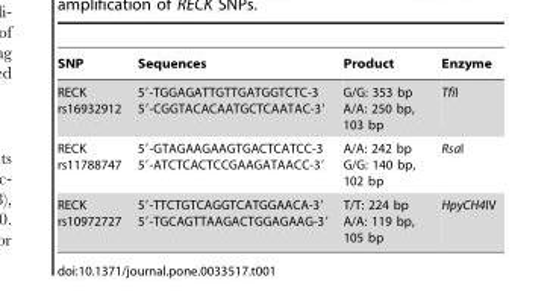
<table><thead><tr><td>SNP</td><td>Sequences</td><td>Product</td><td>Enzyme</td></tr></thead><tbody><tr><td>RECK rs16932912</td><td>5′-TGGAGATTGTTGATGGTCTC-3 5′-CGGTACACAATGCTCAATAC-3′</td><td>G/G: 353 bp A/A: 250 bp, 103 bp</td><td>TfiI</td></tr><tr><td>RECK rs11788747</td><td>5′-GTAGAAGAAGTGACTCATCC-3 5′-ATCTCACTCCGAAGATAACC-3′</td><td>A/A: 242 bp G/G: 140 bp, 102 bp</td><td>RsaI</td></tr><tr><td>RECK rs10972727</td><td>5′-TTCTGTCAGGTCATGGAACA-3′ 5′-TGCAGTTAAGACTGGAGAAG-3′</td><td>T/T: 224 bp A/A: 119 bp, 105 bp</td><td>HpyCH4IV</td></tr></tbody></table>